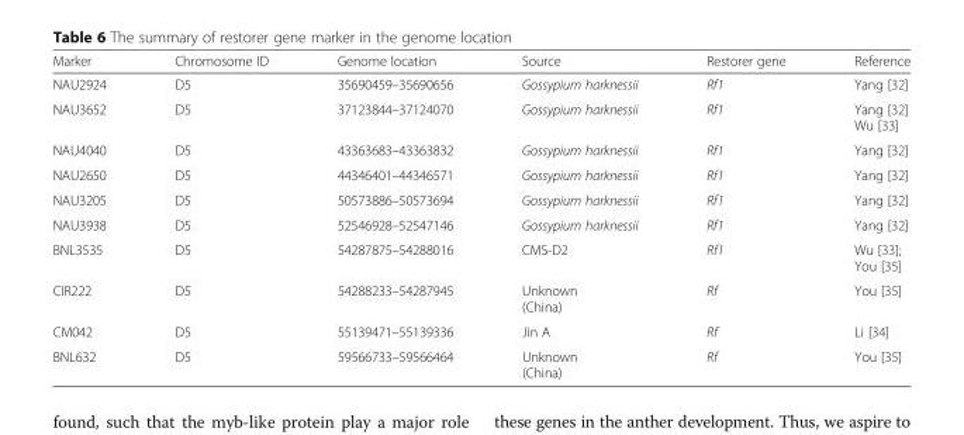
<table><thead><tr><td>Marker</td><td>Chromosome ID</td><td>Genome location</td><td>Source</td><td>Restorer gene</td><td>Reference</td></tr></thead><tbody><tr><td>NAU2924</td><td>D5</td><td>35690459–35690656</td><td>Gossypium harknessii</td><td>Rf1</td><td>Yang [32]</td></tr><tr><td>NAU3652</td><td>D5</td><td>37123844–37124070</td><td>Gossypium harknessii</td><td>Rf1</td><td>Yang [32] Wu [33]</td></tr><tr><td>NAU4040</td><td>D5</td><td>43363683–43363832</td><td>Gossypium harknessii</td><td>Rf1</td><td>Yang [32]</td></tr><tr><td>NAU2650</td><td>D5</td><td>44346401–44346571</td><td>Gossypium harknessii</td><td>Rf1</td><td>Yang [32]</td></tr><tr><td>NAU3205</td><td>D5</td><td>50573886–50573694</td><td>Gossypium harknessii</td><td>Rf1</td><td>Yang [32]</td></tr><tr><td>NAU3938</td><td>D5</td><td>52546928–52547146</td><td>Gossypium harknessii</td><td>Rf1</td><td>Yang [32]</td></tr><tr><td>BNL3535</td><td>D5</td><td>54287875–54288016</td><td>CMS-D2</td><td>Rf1</td><td>Wu [33]; You [35]</td></tr><tr><td>CIR222</td><td>D5</td><td>54288233–54287945</td><td>Unknown (China)</td><td>Rf</td><td>You [35]</td></tr><tr><td>CM042</td><td>D5</td><td>55139471–55139336</td><td>Jin A</td><td>Rf</td><td>Li [34]</td></tr><tr><td>BNL632</td><td>D5</td><td>59566733–59566464</td><td>Unknown (China)</td><td>Rf</td><td>You [35]</td></tr></tbody></table>